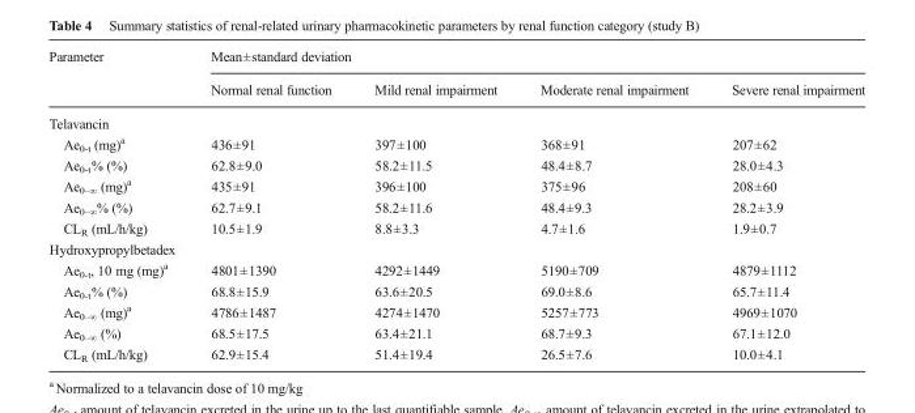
<table><thead><tr><td rowspan="2">Parameter</td><td colspan="4">Mean±standard deviation</td></tr><tr><td>Normal renal function</td><td>Mild renal impairment</td><td>Moderate renal impairment</td><td>Severe renal impairment</td></tr></thead><tbody><tr><td colspan="5">Telavancin</td></tr><tr><td>Ae<sub>0-t</sub> (mg)<sup>a</sup></td><td>436±91</td><td>397±100</td><td>368±91</td><td>207±62</td></tr><tr><td>Ae<sub>0-t</sub>% (%)</td><td>62.8±9.0</td><td>58.2±11.5</td><td>48.4±8.7</td><td>28.0±4.3</td></tr><tr><td>Ae<sub>0–∞</sub> (mg)<sup>a</sup></td><td>435±91</td><td>396±100</td><td>375±96</td><td>208±60</td></tr><tr><td>Ae<sub>0–∞</sub>% (%)</td><td>62.7±9.1</td><td>58.2±11.6</td><td>48.4±9.3</td><td>28.2±3.9</td></tr><tr><td>CL<sub>R</sub> (mL/h/kg)</td><td>10.5±1.9</td><td>8.8±3.3</td><td>4.7±1.6</td><td>1.9±0.7</td></tr><tr><td colspan="5">Hydroxypropylbetadex</td></tr><tr><td>Ae<sub>0-t</sub>, 10 mg (mg)<sup>a</sup></td><td>4801±1390</td><td>4292±1449</td><td>5190±709</td><td>4879±1112</td></tr><tr><td>Ae<sub>0-t</sub>% (%)</td><td>68.8±15.9</td><td>63.6±20.5</td><td>69.0±8.6</td><td>65.7±11.4</td></tr><tr><td>Ae<sub>0–∞</sub> (mg)<sup>a</sup></td><td>4786±1487</td><td>4274±1470</td><td>5257±773</td><td>4969±1070</td></tr><tr><td>Ae<sub>0–∞</sub> (%)</td><td>68.5±17.5</td><td>63.4±21.1</td><td>68.7±9.3</td><td>67.1±12.0</td></tr><tr><td>CL<sub>R</sub> (mL/h/kg)</td><td>62.9±15.4</td><td>51.4±19.4</td><td>26.5±7.6</td><td>10.0±4.1</td></tr></tbody></table>